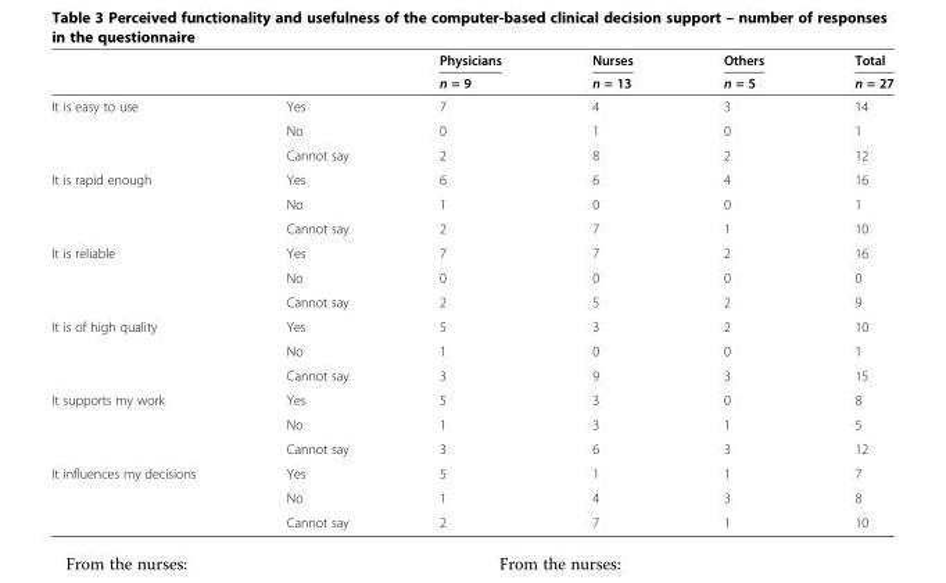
<table><thead><tr><td rowspan="2"></td><td rowspan="2"></td><td rowspan="2">Physicians n = 9</td><td rowspan="2">Nurses n = 13</td><td rowspan="2">Others n = 5</td><td rowspan="2">Total n = 27</td></tr><tr></tr></thead><tbody><tr><td rowspan="3">It is easy to use</td><td>Yes</td><td>7</td><td>4</td><td>3</td><td>14</td></tr><tr><td>No</td><td>0</td><td>1</td><td>0</td><td>1</td></tr><tr><td>Cannot say</td><td>2</td><td>8</td><td>2</td><td>12</td></tr><tr><td rowspan="3">It is rapid enough</td><td>Yes</td><td>6</td><td>6</td><td>4</td><td>16</td></tr><tr><td>No</td><td>1</td><td>0</td><td>0</td><td>1</td></tr><tr><td>Cannot say</td><td>2</td><td>7</td><td>1</td><td>10</td></tr><tr><td rowspan="3">It is reliable</td><td>Yes</td><td>7</td><td>7</td><td>2</td><td>16</td></tr><tr><td>No</td><td>0</td><td>0</td><td>0</td><td>0</td></tr><tr><td>Cannot say</td><td>2</td><td>5</td><td>2</td><td>9</td></tr><tr><td rowspan="3">It is of high quality</td><td>Yes</td><td>5</td><td>3</td><td>2</td><td>10</td></tr><tr><td>No</td><td>1</td><td>0</td><td>0</td><td>1</td></tr><tr><td>Cannot say</td><td>3</td><td>9</td><td>3</td><td>15</td></tr><tr><td rowspan="3">It supports my work</td><td>Yes</td><td>5</td><td>3</td><td>0</td><td>8</td></tr><tr><td>No</td><td>1</td><td>3</td><td>1</td><td>5</td></tr><tr><td>Cannot say</td><td>3</td><td>6</td><td>3</td><td>12</td></tr><tr><td rowspan="3">It influences my decisions</td><td>Yes</td><td>5</td><td>1</td><td>1</td><td>7</td></tr><tr><td>No</td><td>1</td><td>4</td><td>3</td><td>8</td></tr><tr><td>Cannot say</td><td>2</td><td>7</td><td>1</td><td>10</td></tr></tbody></table>